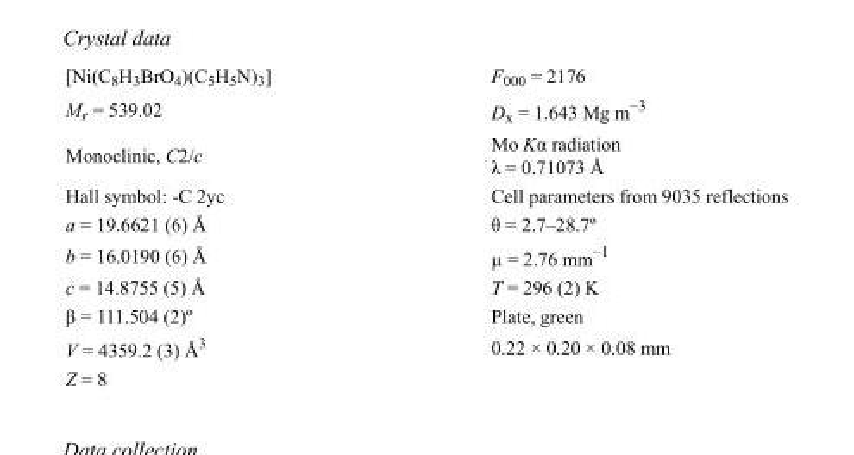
<table><tbody><tr><td>[Ni(C<sub>8</sub>H<sub>3</sub>BrO<sub>4</sub>)(C<sub>5</sub>H<sub>5</sub>N)<sub>3</sub>]</td><td>F<sub>000</sub> = 2176</td></tr><tr><td>M<sub>r</sub> = 539.02</td><td>D<sub>x</sub> = 1.643 Mg m<sup>−3</sup></td></tr><tr><td>Monoclinic, C2/c</td><td>Mo Kα radiation λ = 0.71073 Å</td></tr><tr><td>Hall symbol: -C 2yc</td><td>Cell parameters from 9035 reflections</td></tr><tr><td>a = 19.6621 (6) Å</td><td>θ = 2.7–28.7º</td></tr><tr><td>b = 16.0190 (6) Å</td><td>µ = 2.76 mm<sup>−1</sup></td></tr><tr><td>c = 14.8755 (5) Å</td><td>T = 296 (2) K</td></tr><tr><td>β = 111.504 (2)º</td><td>Plate, green</td></tr><tr><td>V = 4359.2 (3) Å<sup>3</sup></td><td>0.22 × 0.20 × 0.08 mm</td></tr><tr><td>Z = 8</td><td></td></tr></tbody></table>